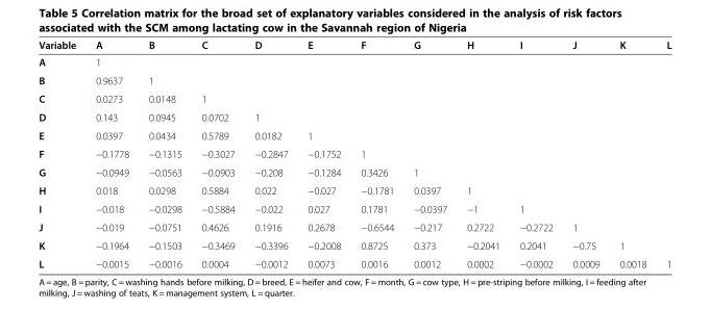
<table><thead><tr><td>Variable</td><td>A</td><td>B</td><td>C</td><td>D</td><td>E</td><td>F</td><td>G</td><td>H</td><td>I</td><td>J</td><td>K</td><td>L</td></tr></thead><tbody><tr><td>A</td><td>1</td><td></td><td></td><td></td><td></td><td></td><td></td><td></td><td></td><td></td><td></td><td></td></tr><tr><td>B</td><td>0.9637</td><td>1</td><td></td><td></td><td></td><td></td><td></td><td></td><td></td><td></td><td></td><td></td></tr><tr><td>C</td><td>0.0273</td><td>0.0148</td><td>1</td><td></td><td></td><td></td><td></td><td></td><td></td><td></td><td></td><td></td></tr><tr><td>D</td><td>0.143</td><td>0.0945</td><td>0.0702</td><td>1</td><td></td><td></td><td></td><td></td><td></td><td></td><td></td><td></td></tr><tr><td>E</td><td>0.0397</td><td>0.0434</td><td>0.5789</td><td>0.0182</td><td>1</td><td></td><td></td><td></td><td></td><td></td><td></td><td></td></tr><tr><td>F</td><td>−0.1778</td><td>−0.1315</td><td>−0.3027</td><td>−0.2847</td><td>−0.1752</td><td>1</td><td></td><td></td><td></td><td></td><td></td><td></td></tr><tr><td>G</td><td>−0.0949</td><td>−0.0563</td><td>−0.0903</td><td>−0.208</td><td>−0.1284</td><td>0.3426</td><td>1</td><td></td><td></td><td></td><td></td><td></td></tr><tr><td>H</td><td>0.018</td><td>0.0298</td><td>0.5884</td><td>0.022</td><td>−0.027</td><td>−0.1781</td><td>0.0397</td><td>1</td><td></td><td></td><td></td><td></td></tr><tr><td>I</td><td>−0.018</td><td>−0.0298</td><td>−0.5884</td><td>−0.022</td><td>0.027</td><td>0.1781</td><td>−0.0397</td><td>−1</td><td>1</td><td></td><td></td><td></td></tr><tr><td>J</td><td>−0.019</td><td>−0.0751</td><td>0.4626</td><td>0.1916</td><td>0.2678</td><td>−0.6544</td><td>−0.217</td><td>0.2722</td><td>−0.2722</td><td>1</td><td></td><td></td></tr><tr><td>K</td><td>−0.1964</td><td>−0.1503</td><td>−0.3469</td><td>−0.3396</td><td>−0.2008</td><td>0.8725</td><td>0.373</td><td>−0.2041</td><td>0.2041</td><td>−0.75</td><td>1</td><td></td></tr><tr><td>L</td><td>−0.0015</td><td>−0.0016</td><td>0.0004</td><td>−0.0012</td><td>0.0073</td><td>0.0016</td><td>0.0012</td><td>0.0002</td><td>−0.0002</td><td>0.0009</td><td>0.0018</td><td>1</td></tr></tbody></table>